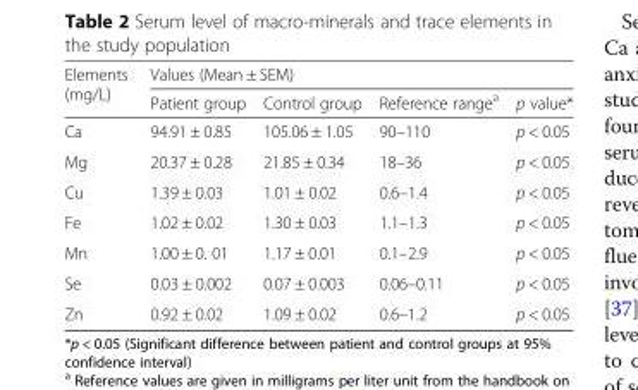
<table><thead><tr><td rowspan="2">Elements (mg/L)</td><td colspan="4">Values (Mean ± SEM)</td></tr><tr><td>Patient group</td><td>Control group</td><td>Reference range<sup>a</sup></td><td>p value*</td></tr></thead><tbody><tr><td>Ca</td><td>94.91 ± 0.85</td><td>105.06 ± 1.05</td><td>90–110</td><td>p &lt; 0.05</td></tr><tr><td>Mg</td><td>20.37 ± 0.28</td><td>21.85 ± 0.34</td><td>18–36</td><td>p &lt; 0.05</td></tr><tr><td>Cu</td><td>1.39 ± 0.03</td><td>1.01 ± 0.02</td><td>0.6–1.4</td><td>p &lt; 0.05</td></tr><tr><td>Fe</td><td>1.02 ± 0.02</td><td>1.30 ± 0.03</td><td>1.1–1.3</td><td>p &lt; 0.05</td></tr><tr><td>Mn</td><td>1.00 ± 0. 01</td><td>1.17 ± 0.01</td><td>0.1–2.9</td><td>p &lt; 0.05</td></tr><tr><td>Se</td><td>0.03 ± 0.002</td><td>0.07 ± 0.003</td><td>0.06–0.11</td><td>p &lt; 0.05</td></tr><tr><td>Zn</td><td>0.92 ± 0.02</td><td>1.09 ± 0.02</td><td>0.6–1.2</td><td>p &lt; 0.05</td></tr></tbody></table>